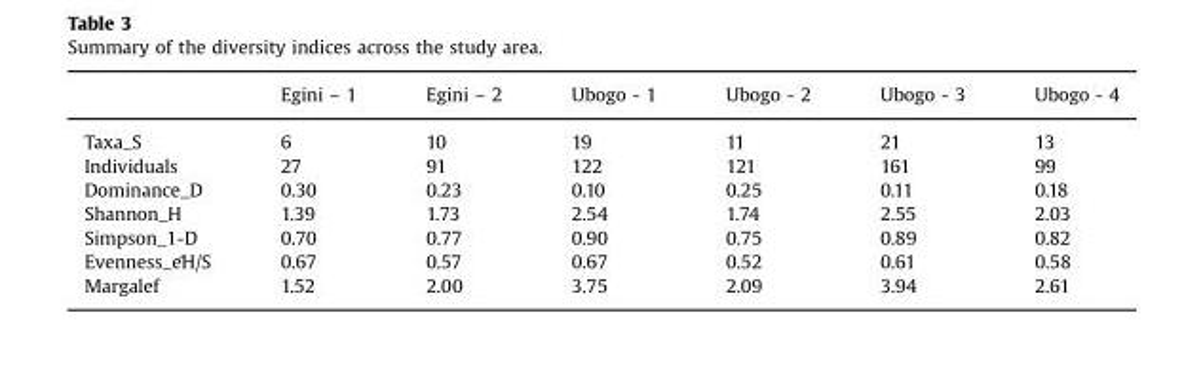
<table><thead><tr><td></td><td>Egini – 1</td><td>Egini – 2</td><td>Ubogo - 1</td><td>Ubogo - 2</td><td>Ubogo - 3</td><td>Ubogo - 4</td></tr></thead><tbody><tr><td>Taxa_S</td><td>6</td><td>10</td><td>19</td><td>11</td><td>21</td><td>13</td></tr><tr><td>Individuals</td><td>27</td><td>91</td><td>122</td><td>121</td><td>161</td><td>99</td></tr><tr><td>Dominance_D</td><td>0.30</td><td>0.23</td><td>0.10</td><td>0.25</td><td>0.11</td><td>0.18</td></tr><tr><td>Shannon_H</td><td>1.39</td><td>1.73</td><td>2.54</td><td>1.74</td><td>2.55</td><td>2.03</td></tr><tr><td>Simpson_1-D</td><td>0.70</td><td>0.77</td><td>0.90</td><td>0.75</td><td>0.89</td><td>0.82</td></tr><tr><td>Evenness_e^H/S</td><td>0.67</td><td>0.57</td><td>0.67</td><td>0.52</td><td>0.61</td><td>0.58</td></tr><tr><td>Margalef</td><td>1.52</td><td>2.00</td><td>3.75</td><td>2.09</td><td>3.94</td><td>2.61</td></tr></tbody></table>